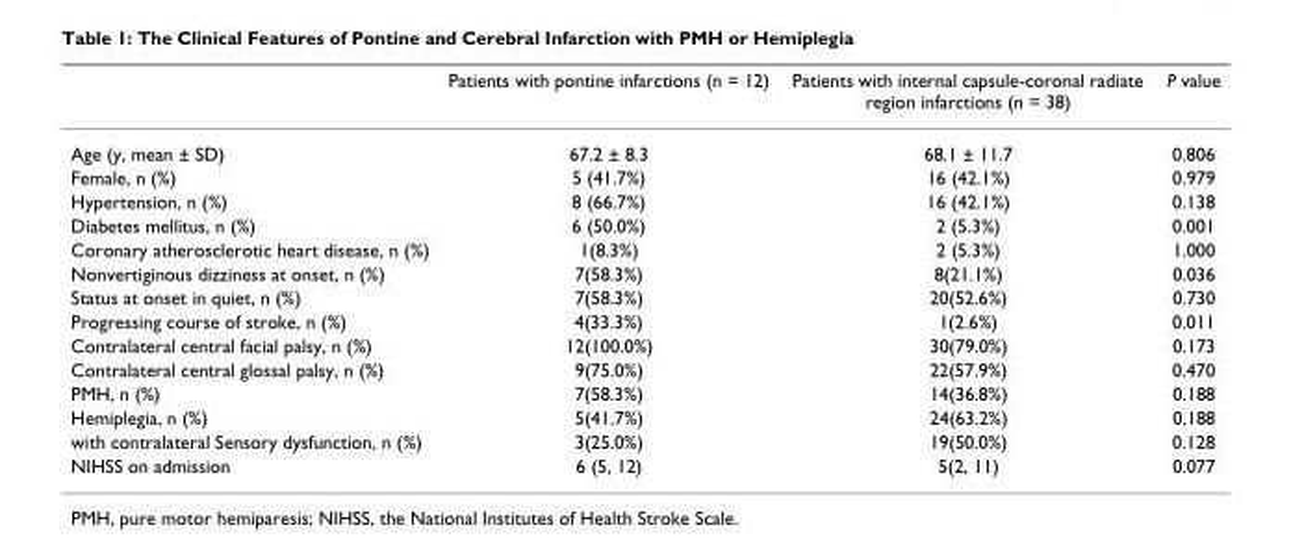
<table><thead><tr><td></td><td>Patients with pontine infarctions (n = 12)</td><td>Patients with internal capsule-coronal radiate region infarctions (n = 38)</td><td>P value</td></tr></thead><tbody><tr><td>Age (y, mean ± SD)</td><td>67.2 ± 8.3</td><td>68.1 ± 11.7</td><td>0.806</td></tr><tr><td>Female, n (%)</td><td>5 (41.7%)</td><td>16 (42.1%)</td><td>0.979</td></tr><tr><td>Hypertension, n (%)</td><td>8 (66.7%)</td><td>16 (42.1%)</td><td>0.138</td></tr><tr><td>Diabetes mellitus, n (%)</td><td>6 (50.0%)</td><td>2 (5.3%)</td><td>0.001</td></tr><tr><td>Coronary atherosclerotic heart disease, n (%)</td><td>1(8.3%)</td><td>2 (5.3%)</td><td>1.000</td></tr><tr><td>Nonvertiginous dizziness at onset, n (%)</td><td>7(58.3%)</td><td>8(21.1%)</td><td>0.036</td></tr><tr><td>Status at onset in quiet, n (%)</td><td>7(58.3%)</td><td>20(52.6%)</td><td>0.730</td></tr><tr><td>Progressing course of stroke, n (%)</td><td>4(33.3%)</td><td>1(2.6%)</td><td>0.011</td></tr><tr><td>Contralateral central facial palsy, n (%)</td><td>12(100.0%)</td><td>30(79.0%)</td><td>0.173</td></tr><tr><td>Contralateral central glossal palsy, n (%)</td><td>9(75.0%)</td><td>22(57.9%)</td><td>0.470</td></tr><tr><td>PMH, n (%)</td><td>7(58.3%)</td><td>14(36.8%)</td><td>0.188</td></tr><tr><td>Hemiplegia, n (%)</td><td>5(41.7%)</td><td>24(63.2%)</td><td>0.188</td></tr><tr><td>with contralateral Sensory dysfunction, n (%)</td><td>3(25.0%)</td><td>19(50.0%)</td><td>0.128</td></tr><tr><td>NIHSS on admission</td><td>6 (5, 12)</td><td>5(2, 11)</td><td>0.077</td></tr></tbody></table>